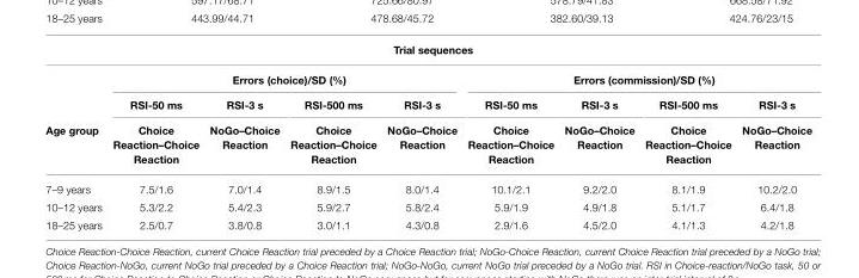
<table><thead><tr><td colspan="9">Trial sequences</td></tr><tr><td rowspan="3">Age group</td><td colspan="4">Errors (choice)/SD (%)</td><td colspan="4">Errors (commission)/SD (%)</td></tr><tr><td rowspan="2">RSI-50 ms Choice Reaction–Choice Reaction</td><td rowspan="2">RSI-3 s NoGo–Choice Reaction</td><td rowspan="2">RSI-500 ms Choice Reaction–Choice Reaction</td><td rowspan="2">RSI-3 s NoGo–Choice Reaction</td><td rowspan="2">RSI-50 ms Choice Reaction–Choice Reaction</td><td rowspan="2">RSI-3 s NoGo–Choice Reaction</td><td rowspan="2">RSI-500 ms Choice Reaction–Choice Reaction</td><td rowspan="2">RSI-3 s NoGo–Choice Reaction</td></tr><tr></tr></thead><tbody><tr><td>7–9 years</td><td>7.5/1.6</td><td>7.0/1.4</td><td>8.9/1.5</td><td>8.0/1.4</td><td>10.1/2.1</td><td>9.2/2.0</td><td>8.1/1.9</td><td>10.2/2.0</td></tr><tr><td>10–12 years</td><td>5.3/2.2</td><td>5.4/2.3</td><td>5.9/2.7</td><td>5.8/2.4</td><td>5.9/1.9</td><td>4.9/1.8</td><td>5.1/1.7</td><td>6.4/1.8</td></tr><tr><td>18–25 years</td><td>2.5/0.7</td><td>3.8/0.8</td><td>3.0/1.1</td><td>4.3/0.8</td><td>2.9/1.6</td><td>4.5/2.0</td><td>4.1/1.3</td><td>4.2/1.8</td></tr></tbody></table>